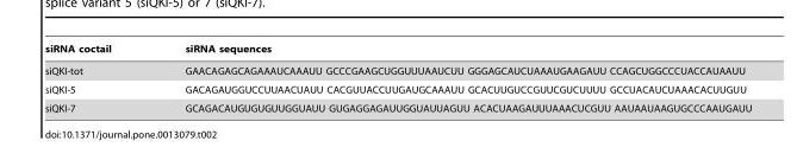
<table><thead><tr><td>siRNA coctail</td><td>siRNA sequences</td></tr></thead><tbody><tr><td>siQKI-tot</td><td>GAACAGAGCAGAAAUCAAAUU GCCCGAAGCUGGUUUAAUCUU GGGAGCAUCUAAAUGAAGAUU CCAGCUGGCCCUACCAUAAUU</td></tr><tr><td>siQKI-5</td><td>GACAGAUGGUCCUUAACUAUU CACGUUACCUUGAUGCAAAUU GCACUUGUCCGUUCGUCUUUU GCCUACAUCUAAACACUUGUU</td></tr><tr><td>siQKI-7</td><td>GCAGACAUGUGUGUUGGUAUU GUGAGGAGAUUGGUAUUAGUU ACACUAAGAUUUAAACUCGUU AAUAAUAAGUGCCCAAUGAUU</td></tr></tbody></table>